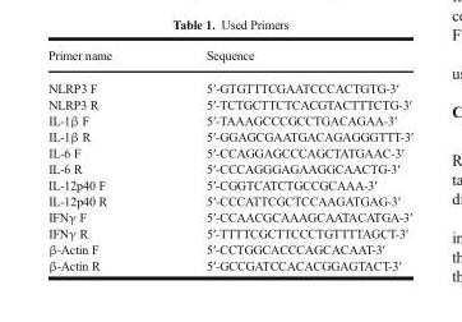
<table><thead><tr><td>Primer name</td><td>Sequence</td></tr></thead><tbody><tr><td>NLRP3 F</td><td>5′-GTGTTTCGAATCCCACTGTG-3′</td></tr><tr><td>NLRP3 R</td><td>5′-TCTGCTTCTCACGTACTTTCTG-3′</td></tr><tr><td>IL-1β F</td><td>5′-TAAAGCCCGCCTGACAGAA-3′</td></tr><tr><td>IL-1β R</td><td>5′-GGAGCGAATGACAGAGGGTTT-3′</td></tr><tr><td>IL-6 F</td><td>5′-CCAGGAGCCCAGCTATGAAC-3′</td></tr><tr><td>IL-6 R</td><td>5′-CCCAGGGAGAAGGCAACTG-3′</td></tr><tr><td>IL-12p40 F</td><td>5′-CGGTCATCTGCCGCAAA-3′</td></tr><tr><td>IL-12p40 R</td><td>5′-CCCATTCGCTCCAAGATGAG-3′</td></tr><tr><td>IFNγ F</td><td>5′-CCAACGCAAAGCAATACATGA-3′</td></tr><tr><td>IFNγ R</td><td>5′-TTTTCGCTTCCCTGTTTTAGCT-3′</td></tr><tr><td>β-Actin F</td><td>5′-CCTGGCACCCAGCACAAT-3′</td></tr><tr><td>β-Actin R</td><td>5′-GCCGATCCACACGGAGTACT-3′</td></tr></tbody></table>